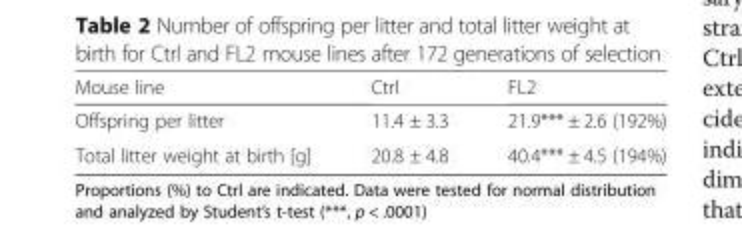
<table><thead><tr><td>Mouse line</td><td>Ctrl</td><td>FL2</td></tr></thead><tbody><tr><td>Offspring per litter</td><td>11.4 ± 3.3</td><td>21.9*** ± 2.6 (192%)</td></tr><tr><td>Total litter weight at birth [g]</td><td>20.8 ± 4.8</td><td>40.4*** ± 4.5 (194%)</td></tr></tbody></table>